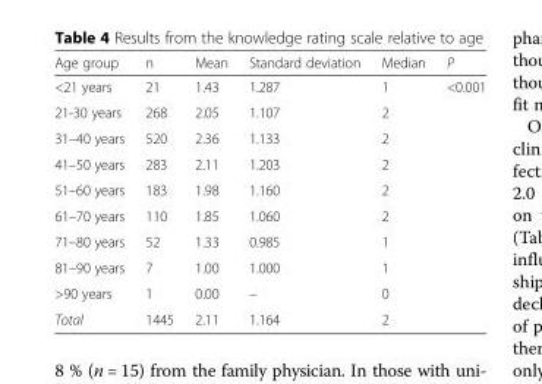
<table><thead><tr><td>Age group</td><td>n</td><td>Mean</td><td>Standard deviation</td><td>Median</td><td>P</td></tr></thead><tbody><tr><td>&lt;21 years</td><td>21</td><td>1.43</td><td>1.287</td><td>1</td><td>&lt;0.001</td></tr><tr><td>21-30 years</td><td>268</td><td>2.05</td><td>1.107</td><td>2</td><td></td></tr><tr><td>31–40 years</td><td>520</td><td>2.36</td><td>1.133</td><td>2</td><td></td></tr><tr><td>41–50 years</td><td>283</td><td>2.11</td><td>1.203</td><td>2</td><td></td></tr><tr><td>51–60 years</td><td>183</td><td>1.98</td><td>1.160</td><td>2</td><td></td></tr><tr><td>61–70 years</td><td>110</td><td>1.85</td><td>1.060</td><td>2</td><td></td></tr><tr><td>71–80 years</td><td>52</td><td>1.33</td><td>0.985</td><td>1</td><td></td></tr><tr><td>81–90 years</td><td>7</td><td>1.00</td><td>1.000</td><td>1</td><td></td></tr><tr><td>&gt;90 years</td><td>1</td><td>0.00</td><td>–</td><td>0</td><td></td></tr><tr><td>Total</td><td>1445</td><td>2.11</td><td>1.164</td><td>2</td><td></td></tr></tbody></table>